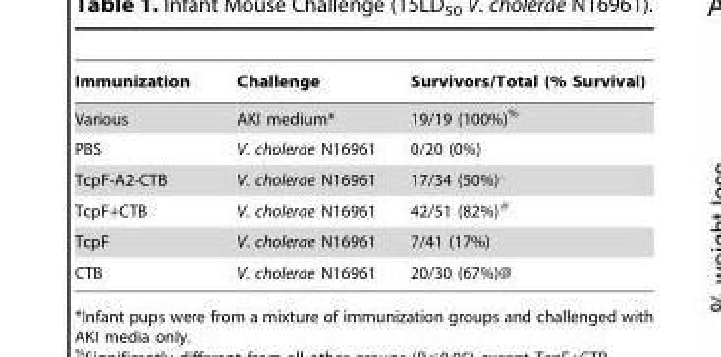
<table><thead><tr><td>Immunization</td><td>Challenge</td><td>Survivors/Total (% Survival)</td></tr></thead><tbody><tr><td>Various</td><td>AKI medium*</td><td>19/19 (100%)%</td></tr><tr><td>PBS</td><td>V. cholerae N16961</td><td>0/20 (0%)</td></tr><tr><td>TcpF-A2-CTB</td><td>V. cholerae N16961</td><td>17/34 (50%)‘</td></tr><tr><td>TcpF+CTB</td><td>V. cholerae N16961</td><td>42/51 (82%)#</td></tr><tr><td>TcpF</td><td>V. cholerae N16961</td><td>7/41 (17%)</td></tr><tr><td>CTB</td><td>V. cholerae N16961</td><td>20/30 (67%)@</td></tr></tbody></table>